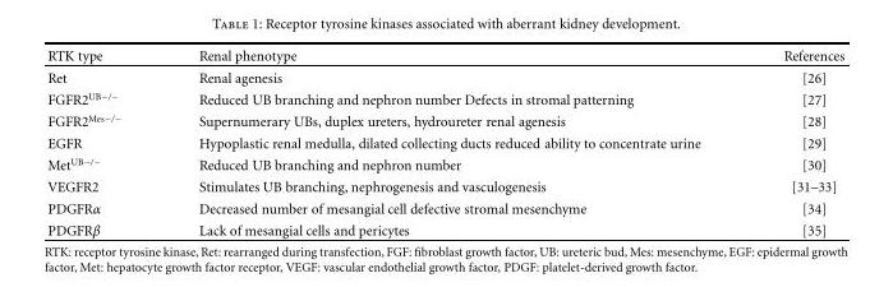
<table><thead><tr><td>RTK type</td><td>Renal phenotype</td><td>References</td></tr></thead><tbody><tr><td>Ret</td><td>Renal agenesis</td><td>[26]</td></tr><tr><td>FGFR2<sup>UB−/−</sup></td><td>Reduced UB branching and nephron number Defects in stromal patterning</td><td>[27]</td></tr><tr><td>FGFR2<sup>Mes−/−</sup></td><td>Supernumerary UBs, duplex ureters, hydroureter renal agenesis</td><td>[28]</td></tr><tr><td>EGFR</td><td>Hypoplastic renal medulla, dilated collecting ducts reduced ability to concentrate urine</td><td>[29]</td></tr><tr><td>Met<sup>UB−/−</sup></td><td>Reduced UB branching and nephron number</td><td>[30]</td></tr><tr><td>VEGFR2</td><td>Stimulates UB branching, nephrogenesis and vasculogenesis</td><td>[31–33]</td></tr><tr><td>PDGFRα</td><td>Decreased number of mesangial cell defective stromal mesenchyme</td><td>[34]</td></tr><tr><td>PDGFRβ</td><td>Lack of mesangial cells and pericytes</td><td>[35]</td></tr></tbody></table>